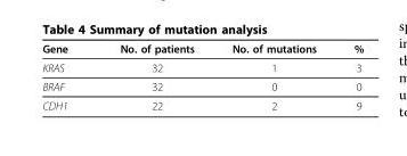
<table><thead><tr><td>Gene</td><td>No. of patients</td><td>No. of mutations</td><td>%</td></tr></thead><tbody><tr><td>KRAS</td><td>32</td><td>1</td><td>3</td></tr><tr><td>BRAF</td><td>32</td><td>0</td><td>0</td></tr><tr><td>CDH1</td><td>22</td><td>2</td><td>9</td></tr></tbody></table>